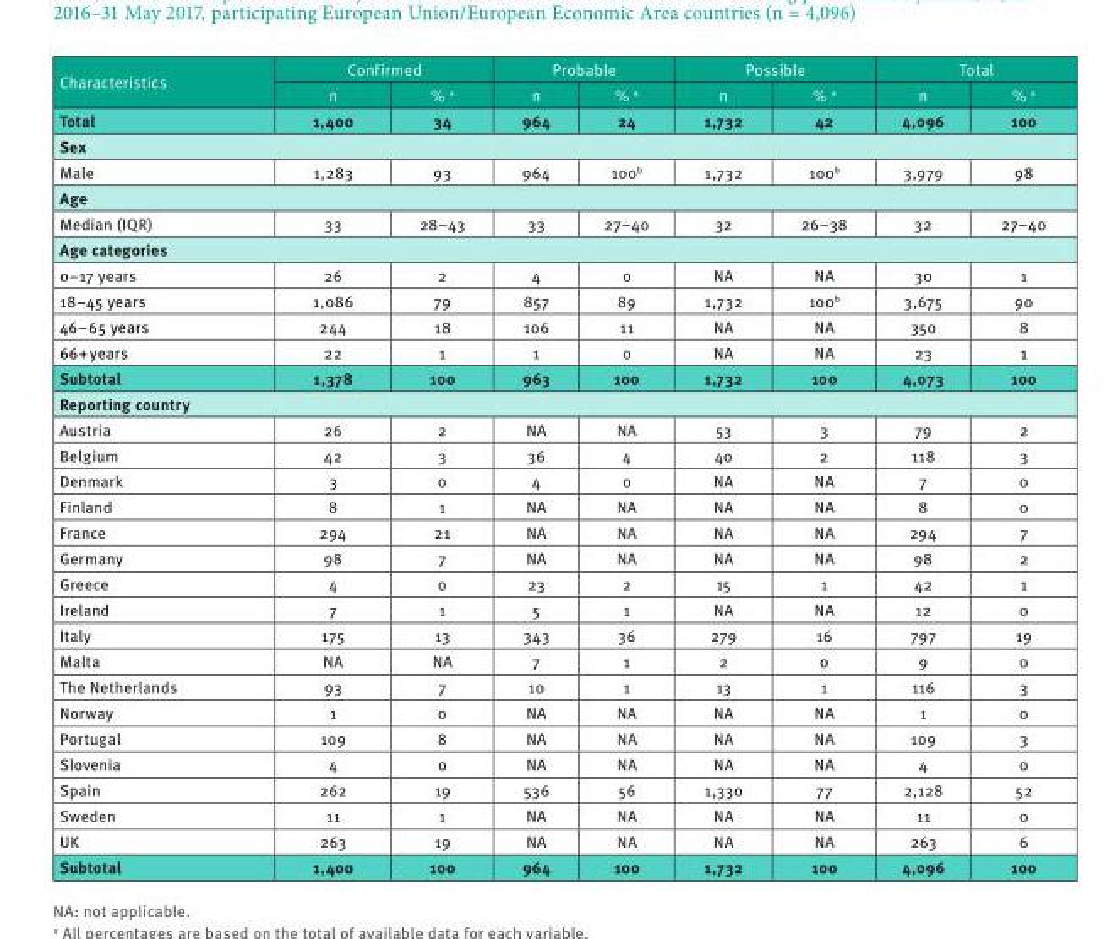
<table><thead><tr><td rowspan="2">Characteristics</td><td colspan="2">Confirmed</td><td colspan="2">Probable</td><td colspan="2">Possible</td><td colspan="2">Total</td></tr><tr><td>n</td><td>% <sup>a</sup></td><td>n</td><td>% <sup>a</sup></td><td>n</td><td>% <sup>a</sup></td><td>n</td><td>% <sup>a</sup></td></tr></thead><tbody><tr><td>Total</td><td>1,400</td><td>34</td><td>964</td><td>24</td><td>1,732</td><td>42</td><td>4,096</td><td>100</td></tr><tr><td colspan="9">Sex</td></tr><tr><td>Male</td><td>1,283</td><td>93</td><td>964</td><td>100<sup>b</sup></td><td>1,732</td><td>100<sup>b</sup></td><td>3,979</td><td>98</td></tr><tr><td colspan="9">Age</td></tr><tr><td>Median (IQR)</td><td>33</td><td>28–43</td><td>33</td><td>27–40</td><td>32</td><td>26–38</td><td>32</td><td>27–40</td></tr><tr><td colspan="9">Age categories</td></tr><tr><td>0–17 years</td><td>26</td><td>2</td><td>4</td><td>0</td><td>NA</td><td>NA</td><td>30</td><td>1</td></tr><tr><td>18–45 years</td><td>1,086</td><td>79</td><td>857</td><td>89</td><td>1,732</td><td>100<sup>b</sup></td><td>3,675</td><td>90</td></tr><tr><td>46–65 years</td><td>244</td><td>18</td><td>106</td><td>11</td><td>NA</td><td>NA</td><td>350</td><td>8</td></tr><tr><td>66+ years</td><td>22</td><td>1</td><td>1</td><td>0</td><td>NA</td><td>NA</td><td>23</td><td>1</td></tr><tr><td>Subtotal</td><td>1,378</td><td>100</td><td>963</td><td>100</td><td>1,732</td><td>100</td><td>4,073</td><td>100</td></tr><tr><td colspan="9">Reporting country</td></tr><tr><td>Austria</td><td>26</td><td>2</td><td>NA</td><td>NA</td><td>53</td><td>3</td><td>79</td><td>2</td></tr><tr><td>Belgium</td><td>42</td><td>3</td><td>36</td><td>4</td><td>40</td><td>2</td><td>118</td><td>3</td></tr><tr><td>Denmark</td><td>3</td><td>0</td><td>4</td><td>0</td><td>NA</td><td>NA</td><td>7</td><td>0</td></tr><tr><td>Finland</td><td>8</td><td>1</td><td>NA</td><td>NA</td><td>NA</td><td>NA</td><td>8</td><td>0</td></tr><tr><td>France</td><td>294</td><td>21</td><td>NA</td><td>NA</td><td>NA</td><td>NA</td><td>294</td><td>7</td></tr><tr><td>Germany</td><td>98</td><td>7</td><td>NA</td><td>NA</td><td>NA</td><td>NA</td><td>98</td><td>2</td></tr><tr><td>Greece</td><td>4</td><td>0</td><td>23</td><td>2</td><td>15</td><td>1</td><td>42</td><td>1</td></tr><tr><td>Ireland</td><td>7</td><td>1</td><td>5</td><td>1</td><td>NA</td><td>NA</td><td>12</td><td>0</td></tr><tr><td>Italy</td><td>175</td><td>13</td><td>343</td><td>36</td><td>279</td><td>16</td><td>797</td><td>19</td></tr><tr><td>Malta</td><td>NA</td><td>NA</td><td>7</td><td>1</td><td>2</td><td>0</td><td>9</td><td>0</td></tr><tr><td>The Netherlands</td><td>93</td><td>7</td><td>10</td><td>1</td><td>13</td><td>1</td><td>116</td><td>3</td></tr><tr><td>Norway</td><td>1</td><td>0</td><td>NA</td><td>NA</td><td>NA</td><td>NA</td><td>1</td><td>0</td></tr><tr><td>Portugal</td><td>109</td><td>8</td><td>NA</td><td>NA</td><td>NA</td><td>NA</td><td>109</td><td>3</td></tr><tr><td>Slovenia</td><td>4</td><td>0</td><td>NA</td><td>NA</td><td>NA</td><td>NA</td><td>4</td><td>0</td></tr><tr><td>Spain</td><td>262</td><td>19</td><td>536</td><td>56</td><td>1,330</td><td>77</td><td>2,128</td><td>52</td></tr><tr><td>Sweden</td><td>11</td><td>1</td><td>NA</td><td>NA</td><td>NA</td><td>NA</td><td>11</td><td>0</td></tr><tr><td>UK</td><td>263</td><td>19</td><td>NA</td><td>NA</td><td>NA</td><td>NA</td><td>263</td><td>6</td></tr><tr><td>Subtotal</td><td>1,400</td><td>100</td><td>964</td><td>100</td><td>1,732</td><td>100</td><td>4,096</td><td>100</td></tr></tbody></table>